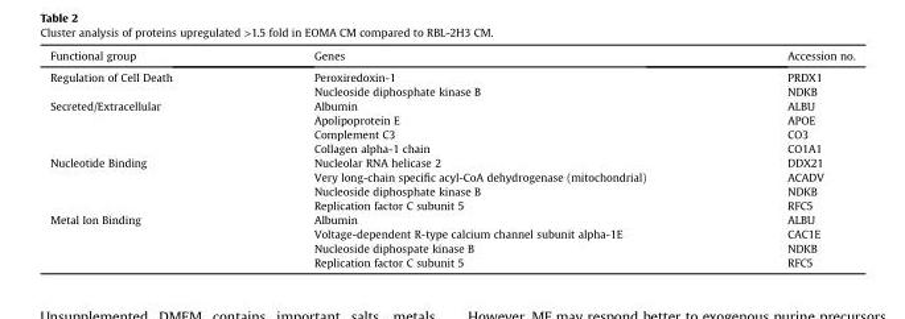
<table><thead><tr><td>Functional group</td><td>Genes</td><td>Accession no.</td></tr></thead><tbody><tr><td rowspan="2">Regulation of Cell Death</td><td>Peroxiredoxin-1</td><td>PRDX1</td></tr><tr><td>Nucleoside diphosphate kinase B</td><td>NDKB</td></tr><tr><td rowspan="4">Secreted/Extracellular</td><td>Albumin</td><td>ALBU</td></tr><tr><td>Apolipoprotein E</td><td>APOE</td></tr><tr><td>Complement C3</td><td>CO3</td></tr><tr><td>Collagen alpha-1 chain</td><td>CO1A1</td></tr><tr><td rowspan="4">Nucleotide Binding</td><td>Nucleolar RNA helicase 2</td><td>DDX21</td></tr><tr><td>Very long-chain specific acyl-CoA dehydrogenase (mitochondrial)</td><td>ACADV</td></tr><tr><td>Nucleoside diphosphate kinase B</td><td>NDKB</td></tr><tr><td>Replication factor C subunit 5</td><td>RFC5</td></tr><tr><td rowspan="4">Metal Ion Binding</td><td>Albumin</td><td>ALBU</td></tr><tr><td>Voltage-dependent R-type calcium channel subunit alpha-1E</td><td>CAC1E</td></tr><tr><td>Nucleoside diphospate kinase B</td><td>NDKB</td></tr><tr><td>Replication factor C subunit 5</td><td>RFC5</td></tr></tbody></table>